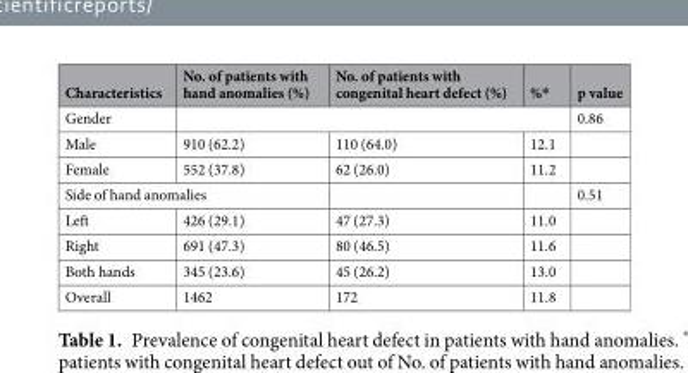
<table><thead><tr><td>Characteristics</td><td>No. of patients with hand anomalies (%)</td><td>No. of patients with congenital heart defect (%)</td><td>%*</td><td>p value</td></tr></thead><tbody><tr><td>Gender</td><td colspan="3"></td><td>0.86</td></tr><tr><td>Male</td><td>910 (62.2)</td><td>110 (64.0)</td><td>12.1</td><td></td></tr><tr><td>Female</td><td>552 (37.8)</td><td>62 (26.0)</td><td>11.2</td><td></td></tr><tr><td colspan="2">Side of hand anomalies</td><td></td><td></td><td>0.51</td></tr><tr><td>Left</td><td>426 (29.1)</td><td>47 (27.3)</td><td>11.0</td><td></td></tr><tr><td>Right</td><td>691 (47.3)</td><td>80 (46.5)</td><td>11.6</td><td></td></tr><tr><td>Both hands</td><td>345 (23.6)</td><td>45 (26.2)</td><td>13.0</td><td></td></tr><tr><td>Overall</td><td>1462</td><td>172</td><td>11.8</td><td></td></tr></tbody></table>